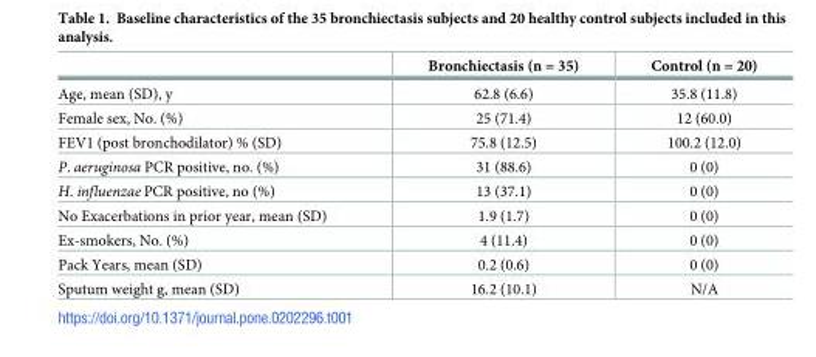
<table><thead><tr><td></td><td>Bronchiectasis (n = 35)</td><td>Control (n = 20)</td></tr></thead><tbody><tr><td>Age, mean (SD), y</td><td>62.8 (6.6)</td><td>35.8 (11.8)</td></tr><tr><td>Female sex, No. (%)</td><td>25 (71.4)</td><td>12 (60.0)</td></tr><tr><td>FEV1 (post bronchodilator) % (SD)</td><td>75.8 (12.5)</td><td>100.2 (12.0)</td></tr><tr><td>P. aeruginosa PCR positive, no. (%)</td><td>31 (88.6)</td><td>0 (0)</td></tr><tr><td>H. influenzae PCR positive, no (%)</td><td>13 (37.1)</td><td>0 (0)</td></tr><tr><td>No Exacerbations in prior year, mean (SD)</td><td>1.9 (1.7)</td><td>0 (0)</td></tr><tr><td>Ex-smokers, No. (%)</td><td>4 (11.4)</td><td>0 (0)</td></tr><tr><td>Pack Years, mean (SD)</td><td>0.2 (0.6)</td><td>0 (0)</td></tr><tr><td>Sputum weight g, mean (SD)</td><td>16.2 (10.1)</td><td>N/A</td></tr></tbody></table>